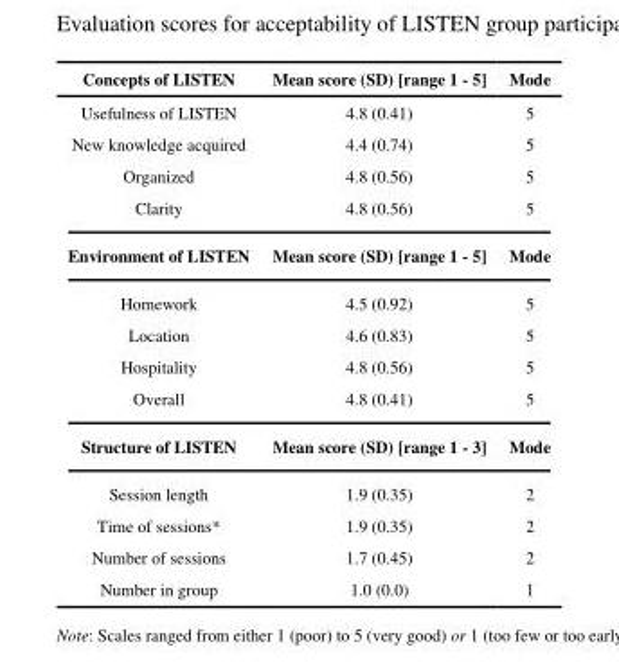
<table><thead><tr><td>Concepts of LISTEN</td><td>Mean score (SD) [range 1 - 5]</td><td>Mode</td></tr></thead><tbody><tr><td>Usefulness of LISTEN</td><td>4.8 (0.41)</td><td>5</td></tr><tr><td>New knowledge acquired</td><td>4.4 (0.74)</td><td>5</td></tr><tr><td>Organized</td><td>4.8 (0.56)</td><td>5</td></tr><tr><td>Clarity</td><td>4.8 (0.56)</td><td>5</td></tr><tr><td>Environment of LISTEN</td><td>Mean score (SD) [range 1 - 5]</td><td>Mode</td></tr><tr><td>Homework</td><td>4.5 (0.92)</td><td>5</td></tr><tr><td>Location</td><td>4.6 (0.83)</td><td>5</td></tr><tr><td>Hospitality</td><td>4.8 (0.56)</td><td>5</td></tr><tr><td>Overall</td><td>4.8 (0.41)</td><td>5</td></tr><tr><td>Structure of LISTEN</td><td>Mean score (SD) [range 1 - 3]</td><td>Mode</td></tr><tr><td>Session length</td><td>1.9 (0.35)</td><td>2</td></tr><tr><td>Time of sessions*</td><td>1.9 (0.35)</td><td>2</td></tr><tr><td>Number of sessions</td><td>1.7 (0.45)</td><td>2</td></tr><tr><td>Number in group</td><td>1.0 (0.0)</td><td>1</td></tr></tbody></table>